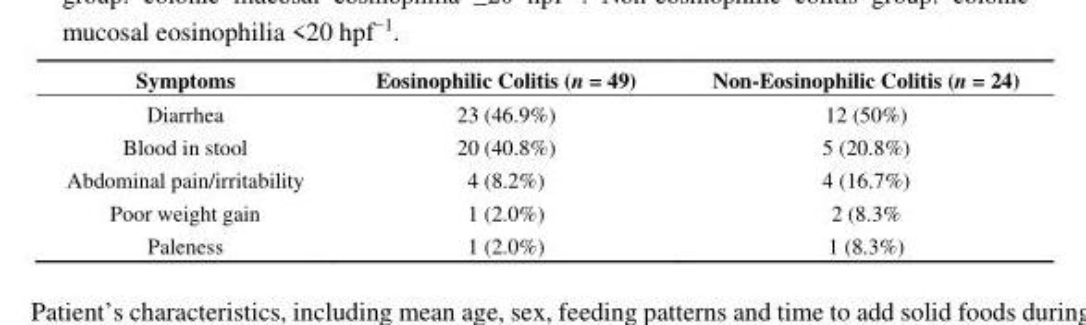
<table><thead><tr><td>Symptoms</td><td>Eosinophilic Colitis (n = 49)</td><td>Non-Eosinophilic Colitis (n = 24)</td></tr></thead><tbody><tr><td>Diarrhea</td><td>23 (46.9%)</td><td>12 (50%)</td></tr><tr><td>Blood in stool</td><td>20 (40.8%)</td><td>5 (20.8%)</td></tr><tr><td>Abdominal pain/irritability</td><td>4 (8.2%)</td><td>4 (16.7%)</td></tr><tr><td>Poor weight gain</td><td>1 (2.0%)</td><td>2 (8.3%</td></tr><tr><td>Paleness</td><td>1 (2.0%)</td><td>1 (8.3%)</td></tr></tbody></table>